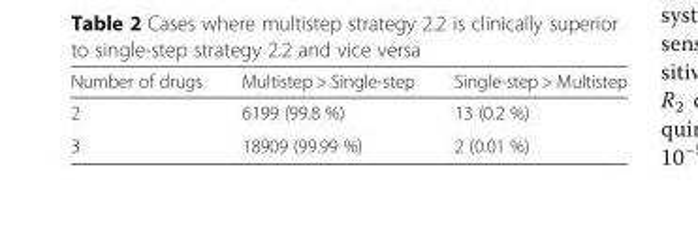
<table><thead><tr><td>Number of drugs</td><td>Multistep &gt; Single-step</td><td>Single-step &gt; Multistep</td></tr></thead><tbody><tr><td>2</td><td>6199 (99.8 %)</td><td>13 (0.2 %)</td></tr><tr><td>3</td><td>18909 (99.99 %)</td><td>2 (0.01 %)</td></tr></tbody></table>